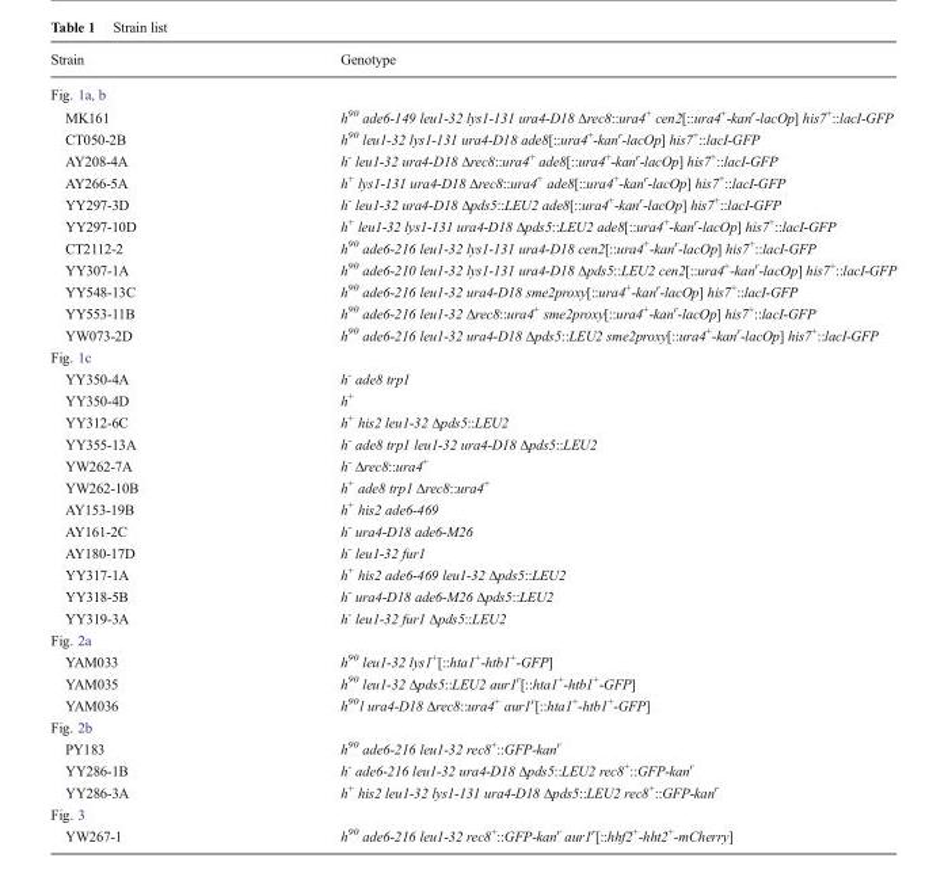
<table><thead><tr><td>Strain</td><td>Genotype</td></tr></thead><tbody><tr><td colspan="2">Fig. 1a, b</td></tr><tr><td>MK161</td><td>h90 ade6-149 leu1-32 lys1-131 ura4-D18 Δrec8::ura4+ cen2[::ura4+-kanr-lacOp] his7+::lacI-GFP</td></tr><tr><td>CT050-2B</td><td>h<sup>90</sup> leu1-32 lys1-131 ura4-D18 ade8[::ura4<sup>+</sup>-kan<sup>r</sup>-lacOp] his7<sup>+</sup>::lacI-GFP</td></tr><tr><td>AY208-4A</td><td>h- leu1-32 ura4-D18 Δrec8::ura4+ ade8[::ura4+-kanr-lacOp] his7+::lacI-GFP</td></tr><tr><td>AY266-5A</td><td>h+ lys1-131 ura4-D18 Δrec8::ura4+ ade8[::ura4+-kanr-lacOp] his7+::lacI-GFP</td></tr><tr><td>YY297-3D</td><td>h- leu1-32 ura4-D18 Δpds5::LEU2 ade8[::ura4+-kanr-lacOp] his7+::lacI-GFP</td></tr><tr><td>YY297-10D</td><td>h+ leu1-32 lys1-131 ura4-D18 Δpds5::LEU2 ade8[::ura4+-kanr-lacOp] his7+::lacI-GFP</td></tr><tr><td>CT2112-2</td><td>h<sup>90</sup> ade6-216 leu1-32 lys1-131 ura4-D18 cen2[::ura4<sup>+</sup>-kan<sup>r</sup>-lacOp] his7<sup>+</sup>::lacI-GFP</td></tr><tr><td>YY307-1A</td><td>h90 ade6-210 leu1-32 lys1-131 ura4-D18 Δpds5::LEU2 cen2[::ura4+-kanr-lacOp] his7+::lacI-GFP</td></tr><tr><td>YY548-13C</td><td>h<sup>90</sup> ade6-216 leu1-32 ura4-D18 sme2proxy[::ura4<sup>+</sup>-kan<sup>r</sup>-lacOp] his7<sup>+</sup>::lacI-GFP</td></tr><tr><td>YY553-11B</td><td>h90 ade6-216 leu1-32 Δrec8::ura4+ sme2proxy[::ura4+-kanr-lacOp] his7+::lacI-GFP</td></tr><tr><td>YW073-2D</td><td>h90 ade6-216 leu1-32 ura4-D18 Δpds5::LEU2 sme2proxy[::ura4+-kanr-lacOp] his7+::lacI-GFP</td></tr><tr><td colspan="2">Fig. 1c</td></tr><tr><td>YY350-4A</td><td>h<sup>-</sup> ade8 trp1</td></tr><tr><td>YY350-4D</td><td>h<sup>+</sup></td></tr><tr><td>YY312-6C</td><td>h+ his2 leu1-32 Δpds5::LEU2</td></tr><tr><td>YY355-13A</td><td>h- ade8 trp1 leu1-32 ura4-D18 Δpds5::LEU2</td></tr><tr><td>YW262-7A</td><td>h- Δrec8::ura4+</td></tr><tr><td>YW262-10B</td><td>h+ ade8 trp1 Δrec8::ura4+</td></tr><tr><td>AY153-19B</td><td>h<sup>+</sup> his2 ade6-469</td></tr><tr><td>AY161-2C</td><td>h<sup>-</sup> ura4-D18 ade6-M26</td></tr><tr><td>AY180-17D</td><td>h<sup>-</sup> leu1-32 fur1</td></tr><tr><td>YY317-1A</td><td>h+ his2 ade6-469 leu1-32 Δpds5::LEU2</td></tr><tr><td>YY318-5B</td><td>h- ura4-D18 ade6-M26 Δpds5::LEU2</td></tr><tr><td>YY319-3A</td><td>h- leu1-32 fur1 Δpds5::LEU2</td></tr><tr><td colspan="2">Fig. 2a</td></tr><tr><td>YAM033</td><td>h<sup>90</sup> leu1-32 lys1<sup>+</sup>[::hta1<sup>+</sup>-htb1<sup>+</sup>-GFP]</td></tr><tr><td>YAM035</td><td>h90 leu1-32 Δpds5::LEU2 aur1r[::hta1+-htb1+-GFP]</td></tr><tr><td>YAM036</td><td>h90l ura4-D18 Δrec8::ura4+ aur1r[::hta1+-htb1+-GFP]</td></tr><tr><td colspan="2">Fig. 2b</td></tr><tr><td>PY183</td><td>h<sup>90</sup> ade6-216 leu1-32 rec8<sup>+</sup>::GFP-kan<sup>r</sup></td></tr><tr><td>YY286-1B</td><td>h- ade6-216 leu1-32 ura4-D18 Δpds5::LEU2 rec8+::GFP-kanr</td></tr><tr><td>YY286-3A</td><td>h+ his2 leu1-32 lys1-131 ura4-D18 Δpds5::LEU2 rec8+::GFP-kanr</td></tr><tr><td colspan="2">Fig. 3</td></tr><tr><td>YW267-1</td><td>h<sup>90</sup> ade6-216 leu1-32 rec8<sup>+</sup>::GFP-kan<sup>r</sup> aur1<sup>r</sup>[::hhf2<sup>+</sup>-hht2<sup>+</sup>-mCherry]</td></tr></tbody></table>